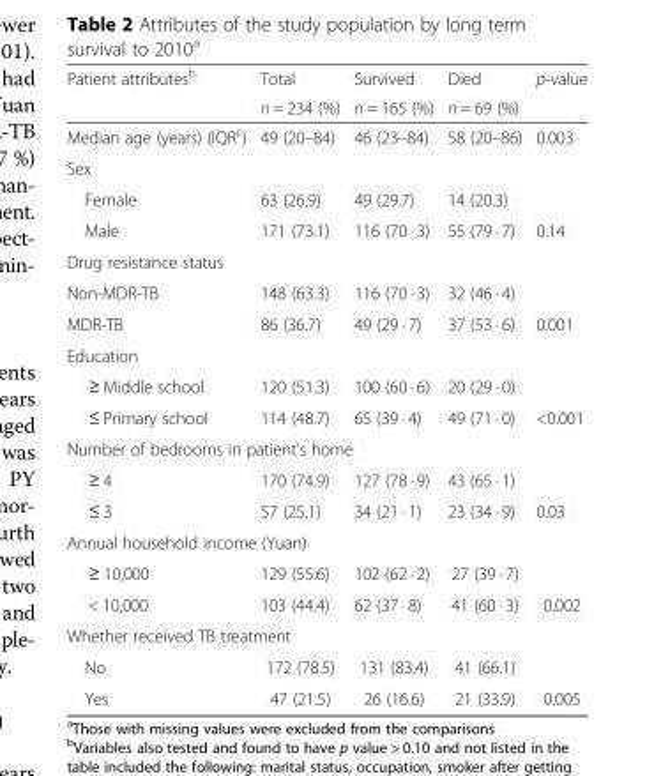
<table><thead><tr><td rowspan="2">Patient attributes<sup>b</sup></td><td rowspan="2">Total n = 234 (%)</td><td rowspan="2">Survived n = 165 (%)</td><td rowspan="2">Died n = 69 (%)</td><td rowspan="2">p-value</td></tr><tr></tr></thead><tbody><tr><td>Median age (years) (IQR<sup>c</sup>)</td><td>49 (20–84)</td><td>46 (23–84)</td><td>58 (20–86)</td><td>0.003</td></tr><tr><td colspan="5">Sex</td></tr><tr><td>Female</td><td>63 (26.9)</td><td>49 (29.7)</td><td>14 (20.3)</td><td></td></tr><tr><td>Male</td><td>171 (73.1)</td><td>116 (70 · 3)</td><td>55 (79 · 7)</td><td>0.14</td></tr><tr><td colspan="5">Drug resistance status</td></tr><tr><td>Non-MDR-TB</td><td>148 (63.3)</td><td>116 (70 · 3)</td><td>32 (46 · 4)</td><td></td></tr><tr><td>MDR-TB</td><td>86 (36.7)</td><td>49 (29 · 7)</td><td>37 (53 · 6)</td><td>0.001</td></tr><tr><td colspan="5">Education</td></tr><tr><td>≥ Middle school</td><td>120 (51.3)</td><td>100 (60 · 6)</td><td>20 (29 · 0)</td><td></td></tr><tr><td>≤ Primary school</td><td>114 (48.7)</td><td>65 (39 · 4)</td><td>49 (71 · 0)</td><td>&lt;0.001</td></tr><tr><td colspan="5">Number of bedrooms in patient’s home</td></tr><tr><td>≥ 4</td><td>170 (74.9)</td><td>127 (78 · 9)</td><td>43 (65 · 1)</td><td></td></tr><tr><td>≤ 3</td><td>57 (25.1)</td><td>34 (21 · 1)</td><td>23 (34 · 9)</td><td>0.03</td></tr><tr><td colspan="5">Annual household income (Yuan)</td></tr><tr><td>≥ 10,000</td><td>129 (55.6)</td><td>102 (62 · 2)</td><td>27 (39 · 7)</td><td></td></tr><tr><td>&lt; 10,000</td><td>103 (44.4)</td><td>62 (37 · 8)</td><td>41 (60 · 3)</td><td>0.002</td></tr><tr><td colspan="5">Whether received TB treatment</td></tr><tr><td>No</td><td>172 (78.5)</td><td>131 (83.4)</td><td>41 (66.1)</td><td></td></tr><tr><td>Yes</td><td>47 (21.5)</td><td>26 (16.6)</td><td>21 (33.9)</td><td>0.005</td></tr></tbody></table>